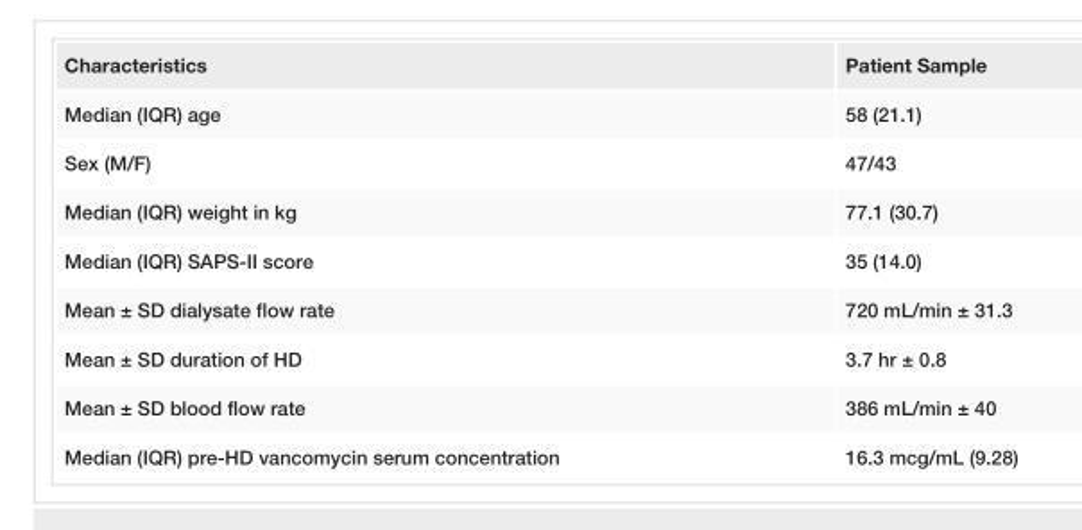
<table><tbody><tr><td>Characteristics</td><td>Patient Sample</td></tr><tr><td>Median (IQR) age</td><td>58 (21.1)</td></tr><tr><td>Sex (M/F)</td><td>47/43</td></tr><tr><td>Median (IQR) weight in kg</td><td>77.1 (30.7)</td></tr><tr><td>Median (IQR) SAPS-II score</td><td>35 (14.0)</td></tr><tr><td>Mean ± SD dialysate flow rate</td><td>720 mL/min ± 31.3</td></tr><tr><td>Mean ± SD duration of HD</td><td>3.7 hr ± 0.8</td></tr><tr><td>Mean ± SD blood flow rate</td><td>386 mL/min ± 40</td></tr><tr><td>Median (IQR) pre-HD vancomycin serum concentration</td><td>16.3 mcg/mL (9.28)</td></tr></tbody></table>